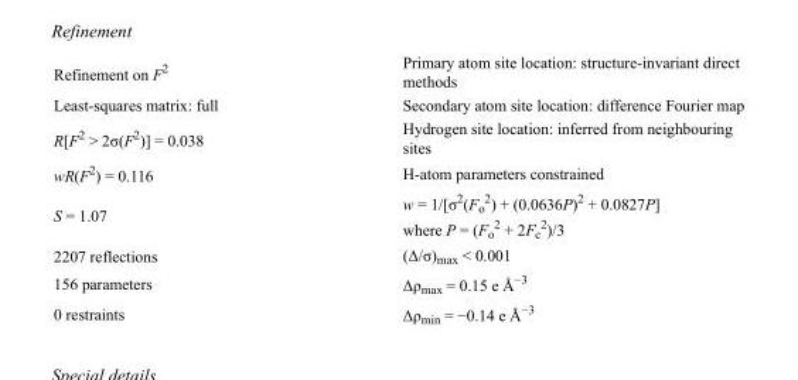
<table><tbody><tr><td>Refinement on F<sup>2</sup></td><td>Primary atom site location: structure-invariant direct methods</td></tr><tr><td>Least-squares matrix: full</td><td>Secondary atom site location: difference Fourier map</td></tr><tr><td>R[F<sup>2</sup> &gt; 2σ(F<sup>2</sup>)] = 0.038</td><td>Hydrogen site location: inferred from neighbouring sites</td></tr><tr><td>wR(F<sup>2</sup>) = 0.116</td><td>H-atom parameters constrained</td></tr><tr><td>S = 1.07</td><td>w = 1/[σ<sup>2</sup>(F<sub>o</sub> <sup>2</sup>) + (0.0636P)<sup>2</sup> + 0.0827P] where P = (F<sub>o</sub> <sup>2</sup> + 2F<sub>c</sub> <sup>2</sup>)/3</td></tr><tr><td>2207 reflections</td><td>(Δ/σ)<sub>max</sub> &lt; 0.001</td></tr><tr><td>156 parameters</td><td>Δρ<sub>max</sub> = 0.15 e Å<sup>−3</sup></td></tr><tr><td>0 restraints</td><td>Δρ<sub>min</sub> = −0.14 e Å<sup>−3</sup></td></tr></tbody></table>